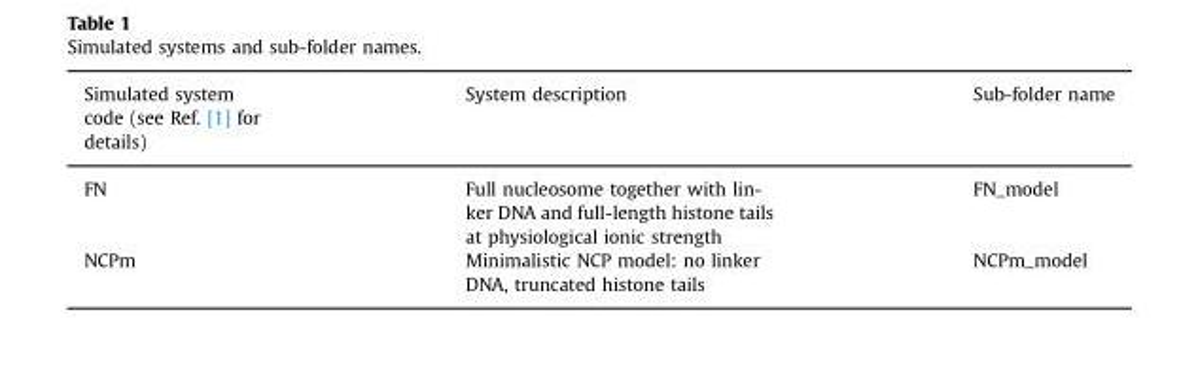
<table><thead><tr><td>Simulated system code (see Ref. [1] for details)</td><td>System description</td><td>Sub-folder name</td></tr></thead><tbody><tr><td>FN</td><td>Full nucleosome together with lin- ker DNA and full-length histone tails at physiological ionic strength</td><td>FN_model</td></tr><tr><td>NCPm</td><td>Minimalistic NCP model: no linker DNA, truncated histone tails</td><td>NCPm_model</td></tr></tbody></table>